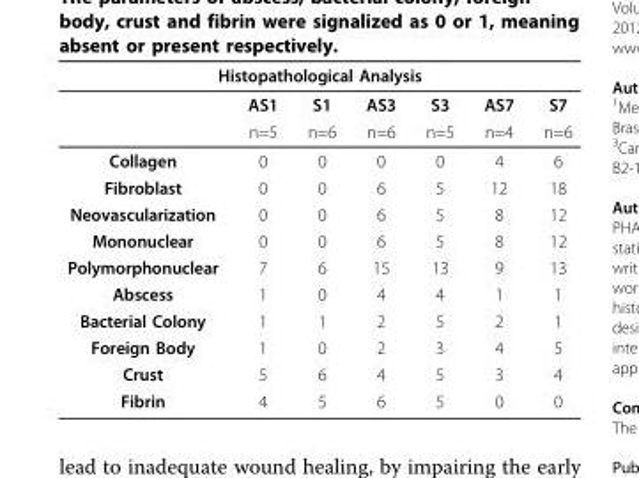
<table><thead><tr><td colspan="7">Histopathological Analysis</td></tr><tr><td></td><td>AS1</td><td>S1</td><td>AS3</td><td>S3</td><td>AS7</td><td>S7</td></tr></thead><tbody><tr><td></td><td>n=5</td><td>n=6</td><td>n=6</td><td>n=5</td><td>n=4</td><td>n=6</td></tr><tr><td>Collagen</td><td>0</td><td>0</td><td>0</td><td>0</td><td>4</td><td>6</td></tr><tr><td>Fibroblast</td><td>0</td><td>0</td><td>6</td><td>5</td><td>12</td><td>18</td></tr><tr><td>Neovascularization</td><td>0</td><td>0</td><td>6</td><td>5</td><td>8</td><td>12</td></tr><tr><td>Mononuclear</td><td>0</td><td>0</td><td>6</td><td>5</td><td>8</td><td>12</td></tr><tr><td>Polymorphonuclear</td><td>7</td><td>6</td><td>15</td><td>13</td><td>9</td><td>13</td></tr><tr><td>Abscess</td><td>1</td><td>0</td><td>4</td><td>4</td><td>1</td><td>1</td></tr><tr><td>Bacterial Colony</td><td>1</td><td>1</td><td>2</td><td>5</td><td>2</td><td>1</td></tr><tr><td>Foreign Body</td><td>1</td><td>0</td><td>2</td><td>3</td><td>4</td><td>5</td></tr><tr><td>Crust</td><td>5</td><td>6</td><td>4</td><td>5</td><td>3</td><td>4</td></tr><tr><td>Fibrin</td><td>4</td><td>5</td><td>6</td><td>5</td><td>0</td><td>0</td></tr></tbody></table>